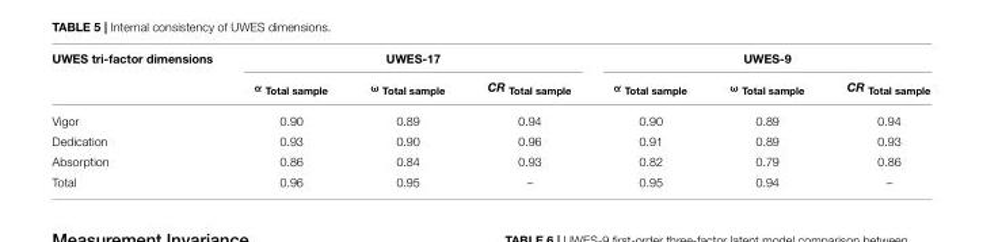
<table><thead><tr><td rowspan="2">UWES tri-factor dimensions</td><td colspan="3">UWES-17</td><td colspan="3">UWES-9</td></tr><tr><td>α <sub>Total sample</sub></td><td>ω <sub>Total sample</sub></td><td>CR <sub>Total sample</sub></td><td>α <sub>Total sample</sub></td><td>ω <sub>Total sample</sub></td><td>CR <sub>Total sample</sub></td></tr></thead><tbody><tr><td>Vigor</td><td>0.90</td><td>0.89</td><td>0.94</td><td>0.90</td><td>0.89</td><td>0.94</td></tr><tr><td>Dedication</td><td>0.93</td><td>0.90</td><td>0.96</td><td>0.91</td><td>0.89</td><td>0.93</td></tr><tr><td>Absorption</td><td>0.86</td><td>0.84</td><td>0.93</td><td>0.82</td><td>0.79</td><td>0.86</td></tr><tr><td>Total</td><td>0.96</td><td>0.95</td><td>–</td><td>0.95</td><td>0.94</td><td>–</td></tr></tbody></table>